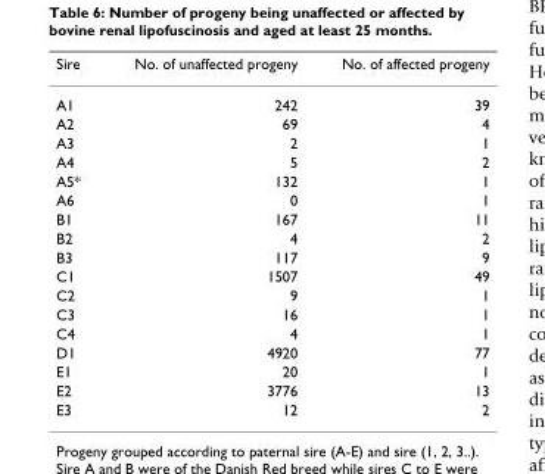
<table><thead><tr><td>Sire</td><td>No. of unaffected progeny</td><td>No. of affected progeny</td></tr></thead><tbody><tr><td>A1</td><td>242</td><td>39</td></tr><tr><td>A2</td><td>69</td><td>4</td></tr><tr><td>A3</td><td>2</td><td>1</td></tr><tr><td>A4</td><td>5</td><td>2</td></tr><tr><td>A5*</td><td>132</td><td>1</td></tr><tr><td>A6</td><td>0</td><td>1</td></tr><tr><td>B1</td><td>167</td><td>11</td></tr><tr><td>B2</td><td>4</td><td>2</td></tr><tr><td>B3</td><td>117</td><td>9</td></tr><tr><td>C1</td><td>1507</td><td>49</td></tr><tr><td>C2</td><td>9</td><td>1</td></tr><tr><td>C3</td><td>16</td><td>1</td></tr><tr><td>C4</td><td>4</td><td>1</td></tr><tr><td>D1</td><td>4920</td><td>77</td></tr><tr><td>E1</td><td>20</td><td>1</td></tr><tr><td>E2</td><td>3776</td><td>13</td></tr><tr><td>E3</td><td>12</td><td>2</td></tr></tbody></table>